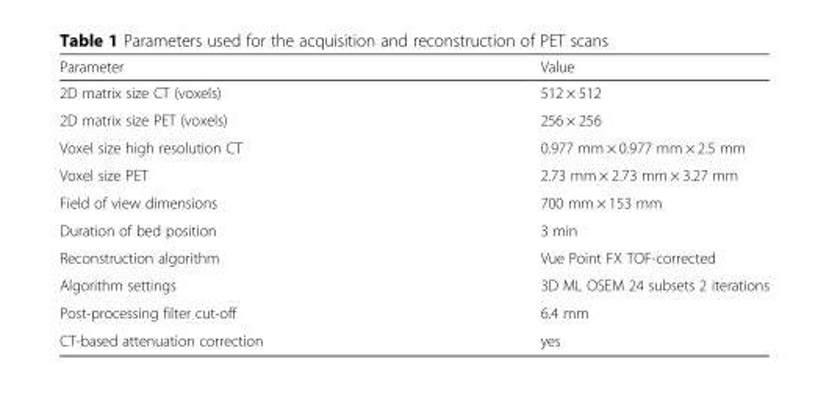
<table><thead><tr><td>Parameter</td><td>Value</td></tr></thead><tbody><tr><td>2D matrix size CT (voxels)</td><td>512 × 512</td></tr><tr><td>2D matrix size PET (voxels)</td><td>256 × 256</td></tr><tr><td>Voxel size high resolution CT</td><td>0.977 mm × 0.977 mm × 2.5 mm</td></tr><tr><td>Voxel size PET</td><td>2.73 mm × 2.73 mm × 3.27 mm</td></tr><tr><td>Field of view dimensions</td><td>700 mm × 153 mm</td></tr><tr><td>Duration of bed position</td><td>3 min</td></tr><tr><td>Reconstruction algorithm</td><td>Vue Point FX TOF-corrected</td></tr><tr><td>Algorithm settings</td><td>3D ML OSEM 24 subsets 2 iterations</td></tr><tr><td>Post-processing filter cut-off</td><td>6.4 mm</td></tr><tr><td>CT-based attenuation correction</td><td>yes</td></tr></tbody></table>